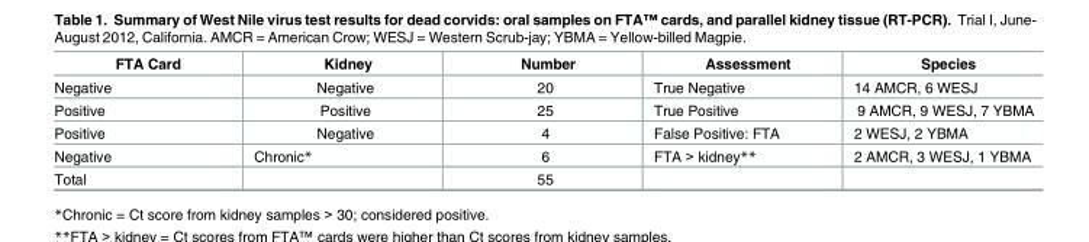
<table><thead><tr><td>FTA Card</td><td>Kidney</td><td>Number</td><td>Assessment</td><td>Species</td></tr></thead><tbody><tr><td>Negative</td><td>Negative</td><td>20</td><td>True Negative</td><td>14 AMCR, 6 WESJ</td></tr><tr><td>Positive</td><td>Positive</td><td>25</td><td>True Positive</td><td>9 AMCR, 9 WESJ, 7 YBMA</td></tr><tr><td>Positive</td><td>Negative</td><td>4</td><td>False Positive: FTA</td><td>2 WESJ, 2 YBMA</td></tr><tr><td>Negative</td><td>Chronic*</td><td>6</td><td>FTA &gt; kidney**</td><td>2 AMCR, 3 WESJ, 1 YBMA</td></tr><tr><td>Total</td><td></td><td>55</td><td></td><td></td></tr></tbody></table>